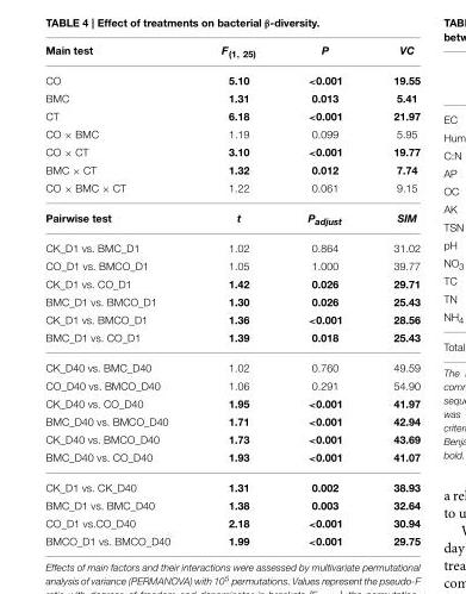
<table><thead><tr><td>Main test</td><td>F<sub>(1, 25)</sub></td><td>P</td><td>VC</td></tr></thead><tbody><tr><td>CO</td><td>5.10</td><td>&lt;0.001</td><td>19.55</td></tr><tr><td>BMC</td><td>1.31</td><td>0.013</td><td>5.41</td></tr><tr><td>CT</td><td>6.18</td><td>&lt;0.001</td><td>21.97</td></tr><tr><td>CO × BMC</td><td>1.19</td><td>0.099</td><td>5.95</td></tr><tr><td>CO × CT</td><td>3.10</td><td>&lt;0.001</td><td>19.77</td></tr><tr><td>BMC × CT</td><td>1.32</td><td>0.012</td><td>7.74</td></tr><tr><td>CO × BMC × CT</td><td>1.22</td><td>0.061</td><td>9.15</td></tr><tr><td>Pairwise test</td><td>t</td><td>Padjust</td><td>SIM</td></tr><tr><td>CK_D1 vs. BMC_D1</td><td>1.02</td><td>0.864</td><td>31.02</td></tr><tr><td>CO_D1 vs. BMCO_D1</td><td>1.05</td><td>1.000</td><td>39.77</td></tr><tr><td>CK_D1 vs. CO_D1</td><td>1.42</td><td>0.026</td><td>29.71</td></tr><tr><td>BMC_D1 vs. BMCO_D1</td><td>1.30</td><td>0.026</td><td>25.43</td></tr><tr><td>CK_D1 vs. BMCO_D1</td><td>1.36</td><td>&lt;0.001</td><td>28.56</td></tr><tr><td>BMC_D1 vs. CO_D1</td><td>1.39</td><td>0.018</td><td>25.43</td></tr><tr><td>CK_D40 vs. BMC_D40</td><td>1.02</td><td>0.760</td><td>49.59</td></tr><tr><td>CO_D40 vs. BMCO_D40</td><td>1.06</td><td>0.291</td><td>54.90</td></tr><tr><td>CK_D40 vs. CO_D40</td><td>1.95</td><td>&lt;0.001</td><td>41.97</td></tr><tr><td>BMC_D40 vs. BMCO_D40</td><td>1.71</td><td>&lt;0.001</td><td>42.94</td></tr><tr><td>CK_D40 vs. BMCO_D40</td><td>1.73</td><td>&lt;0.001</td><td>43.69</td></tr><tr><td>BMC_D40 vs. CO_D40</td><td>1.93</td><td>&lt;0.001</td><td>41.07</td></tr><tr><td>CK_D1 vs. CK_D40</td><td>1.31</td><td>0.002</td><td>38.93</td></tr><tr><td>BMC_D1 vs. BMC_D40</td><td>1.38</td><td>0.003</td><td>32.64</td></tr><tr><td>CO_D1 vs.CO_D40</td><td>2.18</td><td>&lt;0.001</td><td>30.94</td></tr><tr><td>BMCO_D1 vs. BMCO_D40</td><td>1.99</td><td>&lt;0.001</td><td>29.75</td></tr></tbody></table>